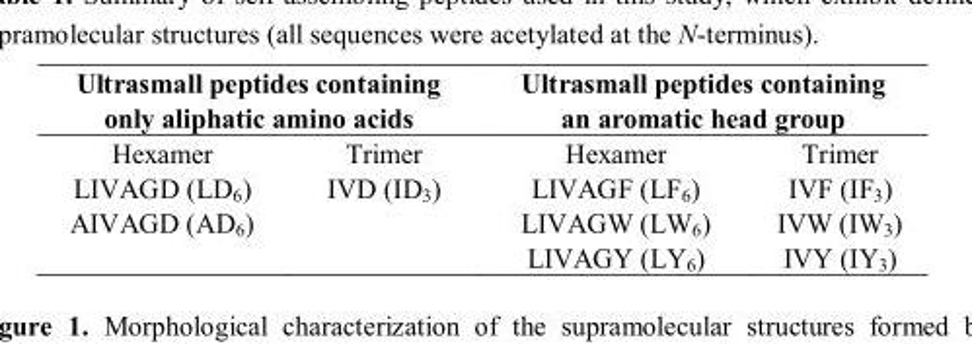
<table><thead><tr><td colspan="2">Ultrasmall peptides containing only aliphatic amino acids</td><td colspan="2">Ultrasmall peptides containing an aromatic head group</td></tr><tr><td>Hexamer</td><td>Trimer</td><td>Hexamer</td><td>Trimer</td></tr></thead><tbody><tr><td>LIVAGD (LD<sub>6</sub>)</td><td>IVD (ID<sub>3</sub>)</td><td>LIVAGF (LF<sub>6</sub>)</td><td>IVF (IF<sub>3</sub>)</td></tr><tr><td rowspan="2">AIVAGD (AD<sub>6</sub>)</td><td></td><td>LIVAGW (LW<sub>6</sub>)</td><td>IVW (IW<sub>3</sub>)</td></tr><tr><td></td><td>LIVAGY (LY<sub>6</sub>)</td><td>IVY (IY<sub>3</sub>)</td></tr></tbody></table>